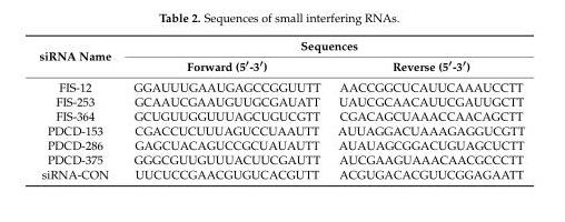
<table><thead><tr><td rowspan="2">siRNA Name</td><td colspan="2">Sequences</td></tr><tr><td>Forward (5′-3′)</td><td>Reverse (5′-3′)</td></tr></thead><tbody><tr><td>FIS-12</td><td>GGAUUUGAAUGAGCCGGUUTT</td><td>AACCGGCUCAUUCAAAUCCTT</td></tr><tr><td>FIS-253</td><td>GCAAUCGAAUGUUGCGAUATT</td><td>UAUCGCAACAUUCGAUUGCTT</td></tr><tr><td>FIS-364</td><td>GCUGUUGGUUUAGCUGUCGTT</td><td>CGACAGCUAAACCAACAGCTT</td></tr><tr><td>PDCD-153</td><td>CGACCUCUUUAGUCCUAAUTT</td><td>AUUAGGACUAAAGAGGUCGTT</td></tr><tr><td>PDCD-286</td><td>GAGCUACAGUCCGCUAUAUTT</td><td>AUAUAGCGGACUGUAGCUCTT</td></tr><tr><td>PDCD-375</td><td>GGGCGUUGUUUACUUCGAUTT</td><td>AUCGAAGUAAACAACGCCCTT</td></tr><tr><td>siRNA-CON</td><td>UUCUCCGAACGUGUCACGUTT</td><td>ACGUGACACGUUCGGAGAATT</td></tr></tbody></table>